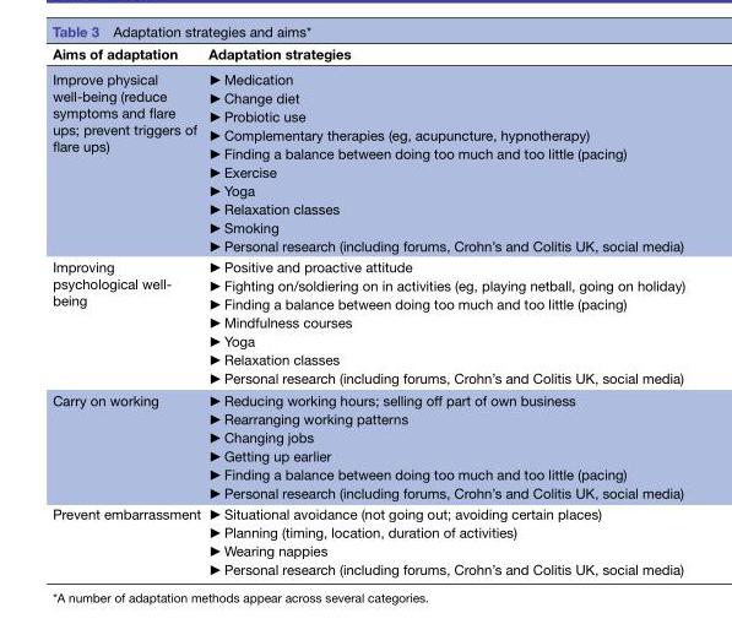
<table><thead><tr><td>Aims of adaptation</td><td>Adaptation strategies</td></tr></thead><tbody><tr><td>Improve physical well-being (reduce symptoms and flare ups; prevent triggers of flare ups)</td><td>►Medication ►Change diet ►Probiotic use ►Complementary therapies (eg, acupuncture, hypnotherapy) ►Finding a balance between doing too much and too little (pacing) ►Exercise ►Yoga ►Relaxation classes ►Smoking ►Personal research (including forums, Crohn’s and Colitis UK, social media)</td></tr><tr><td>Improving psychological well- being</td><td>►Positive and proactive attitude ►Fighting on/soldiering on in activities (eg, playing netball, going on holiday) ►Finding a balance between doing too much and too little (pacing) ►Mindfulness courses ►Yoga ►Relaxation classes ►Personal research (including forums, Crohn’s and Colitis UK, social media)</td></tr><tr><td>Carry on working</td><td>►Reducing working hours; selling off part of own business ►Rearranging working patterns ►Changing jobs ►Getting up earlier ►Finding a balance between doing too much and too little (pacing) ►Personal research (including forums, Crohn’s and Colitis UK, social media)</td></tr><tr><td>Prevent embarrassment</td><td>►Situational avoidance (not going out; avoiding certain places) ►Planning (timing, location, duration of activities) ►Wearing nappies ►Personal research (including forums, Crohn’s and Colitis UK, social media)</td></tr></tbody></table>